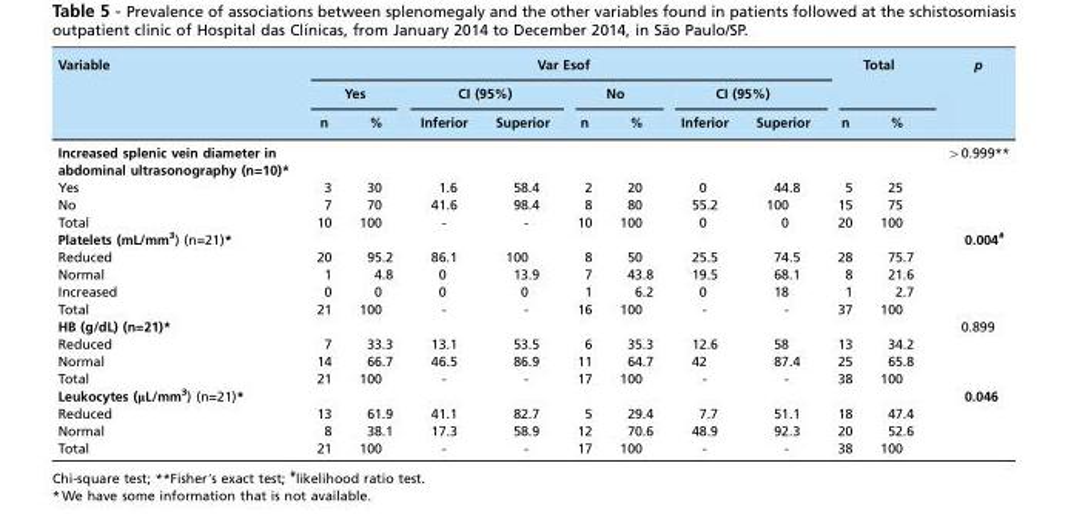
<table><thead><tr><td rowspan="3">Variable</td><td colspan="8">Var Esof</td><td rowspan="2" colspan="2">Total</td><td rowspan="3">p</td></tr><tr><td colspan="2">Yes</td><td colspan="2">CI (95%)</td><td colspan="2">No</td><td colspan="2">CI (95%)</td></tr><tr><td>n</td><td>%</td><td>Inferior</td><td>Superior</td><td>n</td><td>%</td><td>Inferior</td><td>Superior</td><td>n</td><td>%</td></tr></thead><tbody><tr><td colspan="11">Increased splenic vein diameter in abdominal ultrasonography (n=10)*</td><td rowspan="4">&gt;0.999**</td></tr><tr><td>Yes</td><td>3</td><td>30</td><td>1.6</td><td>58.4</td><td>2</td><td>20</td><td>0</td><td>44.8</td><td>5</td><td>25</td></tr><tr><td>No</td><td>7</td><td>70</td><td>41.6</td><td>98.4</td><td>8</td><td>80</td><td>55.2</td><td>100</td><td>15</td><td>75</td></tr><tr><td>Total</td><td>10</td><td>100</td><td>-</td><td>-</td><td>10</td><td>100</td><td>0</td><td>0</td><td>20</td><td>100</td></tr><tr><td colspan="11">Platelets (mL/mm<sup>3</sup>) (n=21)*</td><td rowspan="5">0.004#</td></tr><tr><td>Reduced</td><td>20</td><td>95.2</td><td>86.1</td><td>100</td><td>8</td><td>50</td><td>25.5</td><td>74.5</td><td>28</td><td>75.7</td></tr><tr><td>Normal</td><td>1</td><td>4.8</td><td>0</td><td>13.9</td><td>7</td><td>43.8</td><td>19.5</td><td>68.1</td><td>8</td><td>21.6</td></tr><tr><td>Increased</td><td>0</td><td>0</td><td>0</td><td>0</td><td>1</td><td>6.2</td><td>0</td><td>18</td><td>1</td><td>2.7</td></tr><tr><td>Total</td><td>21</td><td>100</td><td>-</td><td>-</td><td>16</td><td>100</td><td>-</td><td>-</td><td>37</td><td>100</td></tr><tr><td colspan="11">HB (g/dL) (n=21)*</td><td rowspan="4">0.899</td></tr><tr><td>Reduced</td><td>7</td><td>33.3</td><td>13.1</td><td>53.5</td><td>6</td><td>35.3</td><td>12.6</td><td>58</td><td>13</td><td>34.2</td></tr><tr><td>Normal</td><td>14</td><td>66.7</td><td>46.5</td><td>86.9</td><td>11</td><td>64.7</td><td>42</td><td>87.4</td><td>25</td><td>65.8</td></tr><tr><td>Total</td><td>21</td><td>100</td><td>-</td><td>-</td><td>17</td><td>100</td><td>-</td><td>-</td><td>38</td><td>100</td></tr><tr><td colspan="11">Leukocytes (µL/mm<sup>3</sup>) (n=21)*</td><td rowspan="4">0.046</td></tr><tr><td>Reduced</td><td>13</td><td>61.9</td><td>41.1</td><td>82.7</td><td>5</td><td>29.4</td><td>7.7</td><td>51.1</td><td>18</td><td>47.4</td></tr><tr><td>Normal</td><td>8</td><td>38.1</td><td>17.3</td><td>58.9</td><td>12</td><td>70.6</td><td>48.9</td><td>92.3</td><td>20</td><td>52.6</td></tr><tr><td>Total</td><td>21</td><td>100</td><td>-</td><td>-</td><td>17</td><td>100</td><td>-</td><td>-</td><td>38</td><td>100</td></tr></tbody></table>